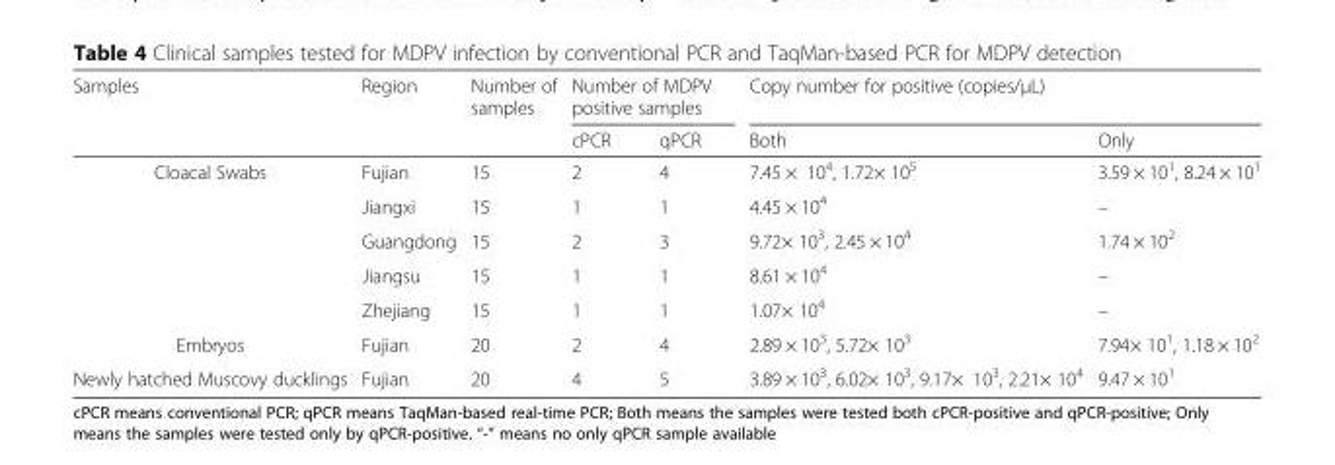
<table><thead><tr><td rowspan="2">Samples</td><td rowspan="2">Region</td><td rowspan="2">Number of samples</td><td colspan="2">Number of MDPV positive samples</td><td colspan="2">Copy number for positive (copies/μL)</td></tr><tr><td>cPCR</td><td>qPCR</td><td>Both</td><td>Only</td></tr></thead><tbody><tr><td rowspan="5">Cloacal Swabs</td><td>Fujian</td><td>15</td><td>2</td><td>4</td><td>7.45 × 10<sup>4</sup>, 1.72× 10<sup>5</sup></td><td>3.59 × 10<sup>1</sup>, 8.24 × 10<sup>1</sup></td></tr><tr><td>Jiangxi</td><td>15</td><td>1</td><td>1</td><td>4.45 × 10<sup>4</sup></td><td>–</td></tr><tr><td>Guangdong</td><td>15</td><td>2</td><td>3</td><td>9.72× 10<sup>3</sup>, 2.45 × 10<sup>4</sup></td><td>1.74 × 10<sup>2</sup></td></tr><tr><td>Jiangsu</td><td>15</td><td>1</td><td>1</td><td>8.61 × 10<sup>4</sup></td><td>–</td></tr><tr><td>Zhejiang</td><td>15</td><td>1</td><td>1</td><td>1.07× 10<sup>4</sup></td><td>–</td></tr><tr><td>Embryos</td><td>Fujian</td><td>20</td><td>2</td><td>4</td><td>2.89 × 10<sup>3</sup>, 5.72× 10<sup>3</sup></td><td>7.94× 10<sup>1</sup>, 1.18 × 10<sup>2</sup></td></tr><tr><td>Newly hatched Muscovy ducklings</td><td>Fujian</td><td>20</td><td>4</td><td>5</td><td>3.89 × 10<sup>3</sup>, 6.02× 10<sup>3</sup>, 9.17× 10<sup>3</sup>, 2.21× 10<sup>4</sup></td><td>9.47 × 10<sup>1</sup></td></tr></tbody></table>